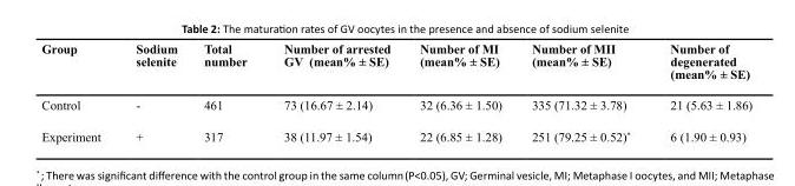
<table><thead><tr><td>Group</td><td>Sodium selenite</td><td>Total number</td><td>Number of arrested GV (mean% ± SE)</td><td>Number of MI (mean% ± SE)</td><td>Number of MII (mean% ± SE)</td><td>Number of degenerated (mean% ± SE)</td></tr></thead><tbody><tr><td>Control</td><td>-</td><td>461</td><td>73 (16.67 ± 2.14)</td><td>32 (6.36 ± 1.50)</td><td>335 (71.32 ± 3.78)</td><td>21 (5.63 ± 1.86)</td></tr><tr><td>Experiment</td><td>+</td><td>317</td><td>38 (11.97 ± 1.54)</td><td>22 (6.85 ± 1.28)</td><td>251 (79.25 ± 0.52)*</td><td>6 (1.90 ± 0.93)</td></tr></tbody></table>